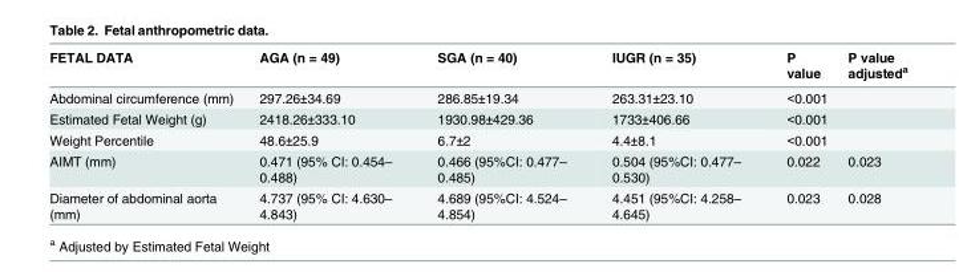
<table><thead><tr><td>FETAL DATA</td><td>AGA (n = 49)</td><td>SGA (n = 40)</td><td>IUGR (n = 35)</td><td>P value</td><td>P value adjusted<sup>a</sup></td></tr></thead><tbody><tr><td>Abdominal circumference (mm)</td><td>297.26±34.69</td><td>286.85±19.34</td><td>263.31±23.10</td><td>&lt;0.001</td><td></td></tr><tr><td>Estimated Fetal Weight (g)</td><td>2418.26±333.10</td><td>1930.98±429.36</td><td>1733±406.66</td><td>&lt;0.001</td><td></td></tr><tr><td>Weight Percentile</td><td>48.6±25.9</td><td>6.7±2</td><td>4.4±8.1</td><td>&lt;0.001</td><td></td></tr><tr><td>AIMT (mm)</td><td>0.471 (95% CI: 0.454– 0.488)</td><td>0.466 (95%CI: 0.477– 0.485)</td><td>0.504 (95%CI: 0.477– 0.530)</td><td>0.022</td><td>0.023</td></tr><tr><td>Diameter of abdominal aorta (mm)</td><td>4.737 (95% CI: 4.630– 4.843)</td><td>4.689 (95%CI: 4.524– 4.854)</td><td>4.451 (95%CI: 4.258– 4.645)</td><td>0.023</td><td>0.028</td></tr></tbody></table>